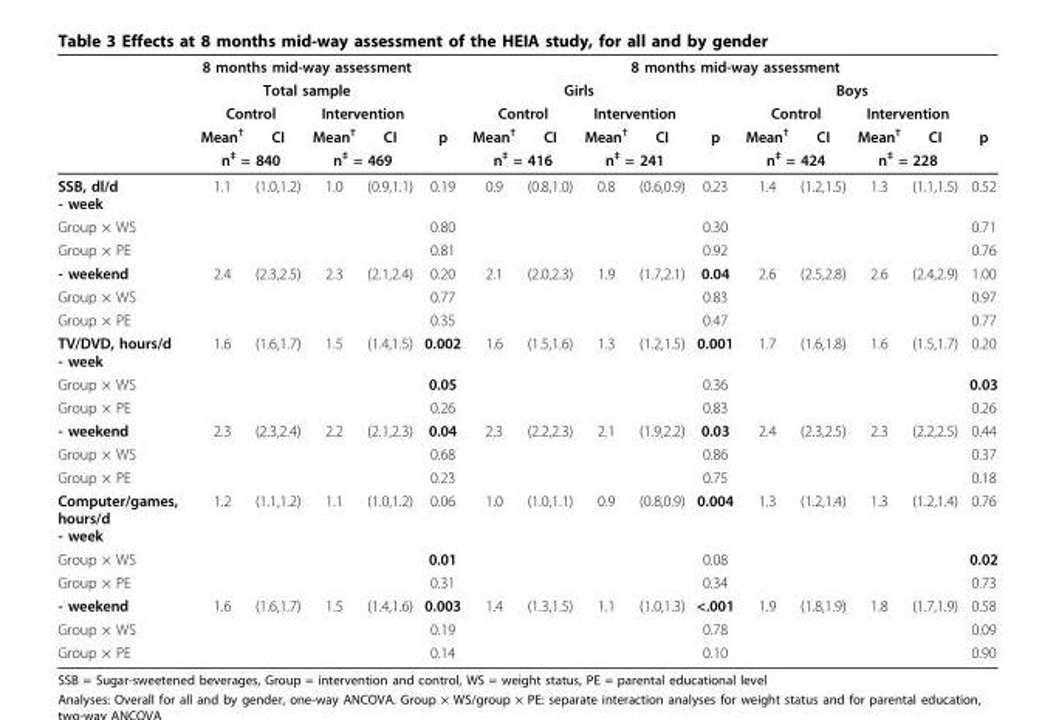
<table><thead><tr><td rowspan="5"></td><td rowspan="2" colspan="4">8 months mid-way assessment Total sample</td><td rowspan="5">p</td><td colspan="10">8 months mid-way assessment</td></tr><tr><td colspan="4">Girls</td><td rowspan="4">p</td><td colspan="4">Boys</td><td rowspan="4">p</td></tr><tr><td colspan="2">Control</td><td colspan="2">Intervention</td><td colspan="2">Control</td><td colspan="2">Intervention</td><td colspan="2">Control</td><td colspan="2">Intervention</td></tr><tr><td>Mean<sup>†</sup></td><td>CI</td><td>Mean<sup>†</sup></td><td>CI</td><td>Mean<sup>†</sup></td><td>CI</td><td>Mean<sup>†</sup></td><td>CI</td><td>Mean<sup>†</sup></td><td>CI</td><td>Mean<sup>†</sup></td><td>CI</td></tr><tr><td colspan="2">n<sup>‡</sup> = 840</td><td colspan="2">n<sup>‡</sup> = 469</td><td colspan="2">n<sup>‡</sup> = 416</td><td colspan="2">n<sup>‡</sup> = 241</td><td colspan="2">n<sup>‡</sup> = 424</td><td colspan="2">n<sup>‡</sup> = 228</td></tr></thead><tbody><tr><td>SSB, dl/d - week</td><td>1.1</td><td>(1.0,1.2)</td><td>1.0</td><td>(0.9,1.1)</td><td>0.19</td><td>0.9</td><td>(0.8,1.0)</td><td>0.8</td><td>(0.6,0.9)</td><td>0.23</td><td>1.4</td><td>(1.2,1.5)</td><td>1.3</td><td>(1.1,1.5)</td><td>0.52</td></tr><tr><td>Group × WS</td><td></td><td></td><td></td><td></td><td>0.80</td><td></td><td></td><td></td><td></td><td>0.30</td><td></td><td></td><td></td><td></td><td>0.71</td></tr><tr><td>Group × PE</td><td></td><td></td><td></td><td></td><td>0.81</td><td></td><td></td><td></td><td></td><td>0.92</td><td></td><td></td><td></td><td></td><td>0.76</td></tr><tr><td>- weekend</td><td>2.4</td><td>(2.3,2.5)</td><td>2.3</td><td>(2.1,2.4)</td><td>0.20</td><td>2.1</td><td>(2.0,2.3)</td><td>1.9</td><td>(1.7,2.1)</td><td>0.04</td><td>2.6</td><td>(2.5,2.8)</td><td>2.6</td><td>(2.4,2.9)</td><td>1.00</td></tr><tr><td>Group × WS</td><td></td><td></td><td></td><td></td><td>0.77</td><td></td><td></td><td></td><td></td><td>0.83</td><td></td><td></td><td></td><td></td><td>0.97</td></tr><tr><td>Group × PE</td><td></td><td></td><td></td><td></td><td>0.35</td><td></td><td></td><td></td><td></td><td>0.47</td><td></td><td></td><td></td><td></td><td>0.77</td></tr><tr><td>TV/DVD, hours/d - week</td><td>1.6</td><td>(1.6,1.7)</td><td>1.5</td><td>(1.4,1.5)</td><td>0.002</td><td>1.6</td><td>(1.5,1.6)</td><td>1.3</td><td>(1.2,1.5)</td><td>0.001</td><td>1.7</td><td>(1.6,1.8)</td><td>1.6</td><td>(1.5,1.7)</td><td>0.20</td></tr><tr><td>Group × WS</td><td></td><td></td><td></td><td></td><td>0.05</td><td></td><td></td><td></td><td></td><td>0.36</td><td></td><td></td><td></td><td></td><td>0.03</td></tr><tr><td>Group × PE</td><td></td><td></td><td></td><td></td><td>0.26</td><td></td><td></td><td></td><td></td><td>0.83</td><td></td><td></td><td></td><td></td><td>0.26</td></tr><tr><td>- weekend</td><td>2.3</td><td>(2.3,2.4)</td><td>2.2</td><td>(2.1,2.3)</td><td>0.04</td><td>2.3</td><td>(2.2,2.3)</td><td>2.1</td><td>(1.9,2.2)</td><td>0.03</td><td>2.4</td><td>(2.3,2.5)</td><td>2.3</td><td>(2.2,2.5)</td><td>0.44</td></tr><tr><td>Group × WS</td><td></td><td></td><td></td><td></td><td>0.68</td><td></td><td></td><td></td><td></td><td>0.86</td><td></td><td></td><td></td><td></td><td>0.37</td></tr><tr><td>Group × PE</td><td></td><td></td><td></td><td></td><td>0.23</td><td></td><td></td><td></td><td></td><td>0.75</td><td></td><td></td><td></td><td></td><td>0.18</td></tr><tr><td>Computer/games, hours/d - week</td><td>1.2</td><td>(1.1,1.2)</td><td>1.1</td><td>(1.0,1.2)</td><td>0.06</td><td>1.0</td><td>(1.0,1.1)</td><td>0.9</td><td>(0.8,0.9)</td><td>0.004</td><td>1.3</td><td>(1.2,1.4)</td><td>1.3</td><td>(1.2,1.4)</td><td>0.76</td></tr><tr><td>Group × WS</td><td></td><td></td><td></td><td></td><td>0.01</td><td></td><td></td><td></td><td></td><td>0.08</td><td></td><td></td><td></td><td></td><td>0.02</td></tr><tr><td>Group × PE</td><td></td><td></td><td></td><td></td><td>0.31</td><td></td><td></td><td></td><td></td><td>0.34</td><td></td><td></td><td></td><td></td><td>0.73</td></tr><tr><td>- weekend</td><td>1.6</td><td>(1.6,1.7)</td><td>1.5</td><td>(1.4,1.6)</td><td>0.003</td><td>1.4</td><td>(1.3,1.5)</td><td>1.1</td><td>(1.0,1.3)</td><td>&lt;.001</td><td>1.9</td><td>(1.8,1.9)</td><td>1.8</td><td>(1.7,1.9)</td><td>0.58</td></tr><tr><td>Group × WS</td><td></td><td></td><td></td><td></td><td>0.19</td><td></td><td></td><td></td><td></td><td>0.78</td><td></td><td></td><td></td><td></td><td>0.09</td></tr><tr><td>Group × PE</td><td></td><td></td><td></td><td></td><td>0.14</td><td></td><td></td><td></td><td></td><td>0.10</td><td></td><td></td><td></td><td></td><td>0.90</td></tr></tbody></table>